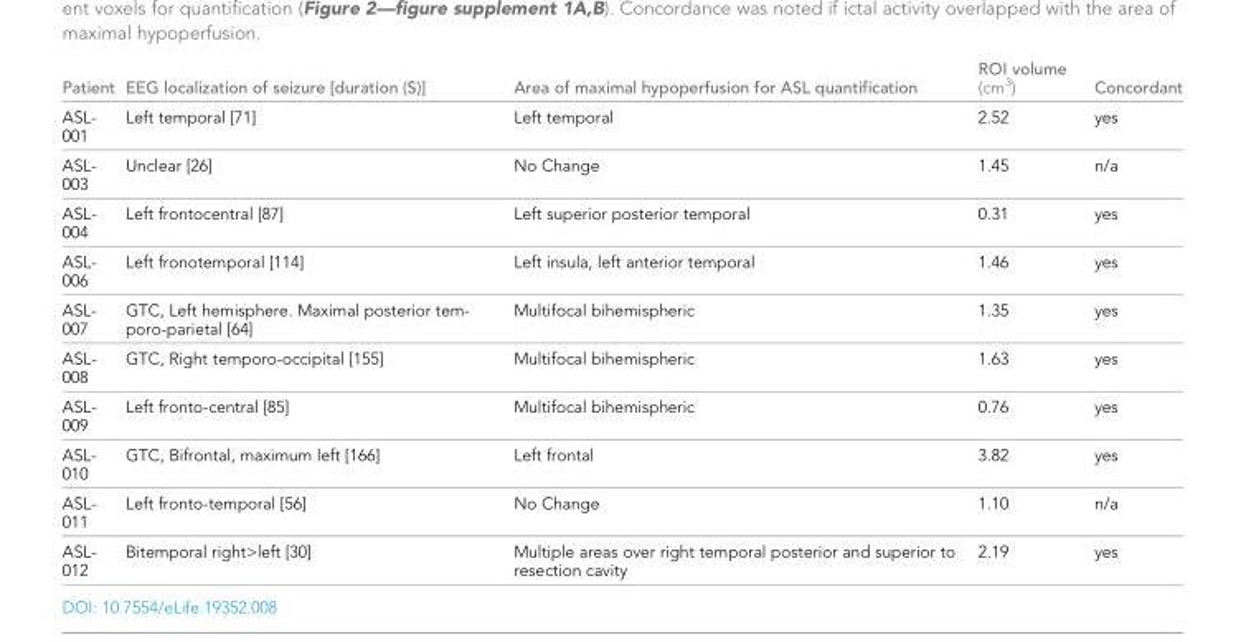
<table><thead><tr><td>Patient</td><td>EEG localization of seizure [duration (S)]</td><td>Area of maximal hypoperfusion for ASL quantification</td><td>ROI volume (cm<sup>3</sup>)</td><td>Concordant</td></tr></thead><tbody><tr><td>ASL- 001</td><td>Left temporal [71]</td><td>Left temporal</td><td>2.52</td><td>yes</td></tr><tr><td>ASL- 003</td><td>Unclear [26]</td><td>No Change</td><td>1.45</td><td>n/a</td></tr><tr><td>ASL- 004</td><td>Left frontocentral [87]</td><td>Left superior posterior temporal</td><td>0.31</td><td>yes</td></tr><tr><td>ASL- 006</td><td>Left fronotemporal [114]</td><td>Left insula, left anterior temporal</td><td>1.46</td><td>yes</td></tr><tr><td>ASL- 007</td><td>GTC, Left hemisphere. Maximal posterior tem- poro-parietal [64]</td><td>Multifocal bihemispheric</td><td>1.35</td><td>yes</td></tr><tr><td>ASL- 008</td><td>GTC, Right temporo-occipital [155]</td><td>Multifocal bihemispheric</td><td>1.63</td><td>yes</td></tr><tr><td>ASL- 009</td><td>Left fronto-central [85]</td><td>Multifocal bihemispheric</td><td>0.76</td><td>yes</td></tr><tr><td>ASL- 010</td><td>GTC, Bifrontal, maximum left [166]</td><td>Left frontal</td><td>3.82</td><td>yes</td></tr><tr><td>ASL- 011</td><td>Left fronto-temporal [56]</td><td>No Change</td><td>1.10</td><td>n/a</td></tr><tr><td>ASL- 012</td><td>Bitemporal right&gt;left [30]</td><td>Multiple areas over right temporal posterior and superior to resection cavity</td><td>2.19</td><td>yes</td></tr></tbody></table>